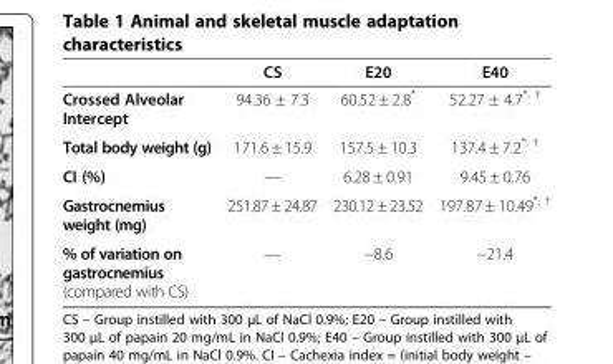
<table><thead><tr><td></td><td>CS</td><td>E20</td><td>E40</td></tr></thead><tbody><tr><td>Crossed Alveolar Intercept</td><td>94.36 ± 7.3</td><td>60.52 ± 2.8*</td><td>52.27 ± 4.7<sup>*, †</sup></td></tr><tr><td>Total body weight (g)</td><td>171.6 ± 15.9</td><td>157.5 ± 10.3</td><td>137.4 ± 7.2<sup>*, †</sup></td></tr><tr><td>CI (%)</td><td>—</td><td>6.28 ± 0.91</td><td>9.45 ± 0.76</td></tr><tr><td>Gastrocnemius weight (mg)</td><td>251.87 ± 24.87</td><td>230.12 ± 23.52</td><td>197.87 ± 10.49<sup>*, †</sup></td></tr><tr><td>% of variation on gastrocnemius (compared with CS)</td><td>—</td><td>−8.6</td><td>−21.4</td></tr></tbody></table>